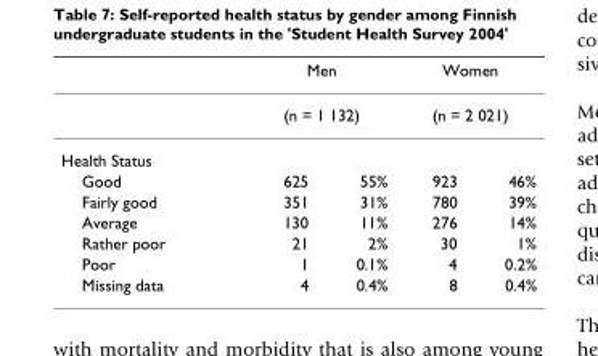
<table><thead><tr><td rowspan="2"></td><td rowspan="2" colspan="2">Men (n = 1 132)</td><td rowspan="2" colspan="2">Women (n = 2 021)</td></tr><tr></tr><tr><td colspan="5">Health Status</td></tr><tr><td>Good</td><td>625</td><td>55%</td><td>923</td><td>46%</td></tr></thead><tbody><tr><td>Fairly good</td><td>351</td><td>31%</td><td>780</td><td>39%</td></tr><tr><td>Average</td><td>130</td><td>11%</td><td>276</td><td>14%</td></tr><tr><td>Rather poor</td><td>21</td><td>2%</td><td>30</td><td>1%</td></tr><tr><td>Poor</td><td>1</td><td>0.1%</td><td>4</td><td>0.2%</td></tr><tr><td>Missing data</td><td>4</td><td>0.4%</td><td>8</td><td>0.4%</td></tr></tbody></table>